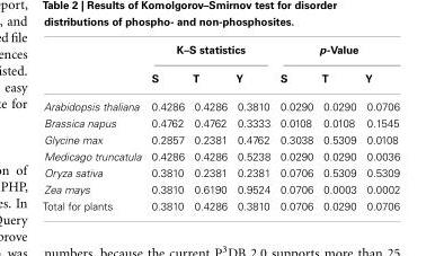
<table><thead><tr><td rowspan="2"></td><td colspan="3">K–S statistics</td><td colspan="3">p-Value</td></tr><tr><td>S</td><td>T</td><td>Y</td><td>S</td><td>T</td><td>Y</td></tr></thead><tbody><tr><td>Arabidopsis thaliana</td><td>0.4286</td><td>0.4286</td><td>0.3810</td><td>0.0290</td><td>0.0290</td><td>0.0706</td></tr><tr><td>Brassica napus</td><td>0.4762</td><td>0.4762</td><td>0.3333</td><td>0.0108</td><td>0.0108</td><td>0.1545</td></tr><tr><td>Glycine max</td><td>0.2857</td><td>0.2381</td><td>0.4762</td><td>0.3038</td><td>0.5309</td><td>0.0108</td></tr><tr><td>Medicago truncatula</td><td>0.4286</td><td>0.4286</td><td>0.5238</td><td>0.0290</td><td>0.0290</td><td>0.0036</td></tr><tr><td>Oryza sativa</td><td>0.3810</td><td>0.2381</td><td>0.2381</td><td>0.0706</td><td>0.5309</td><td>0.5309</td></tr><tr><td>Zea mays</td><td>0.3810</td><td>0.6190</td><td>0.9524</td><td>0.0706</td><td>0.0003</td><td>0.0002</td></tr><tr><td>Total for plants</td><td>0.3810</td><td>0.4286</td><td>0.3810</td><td>0.0706</td><td>0.0290</td><td>0.0706</td></tr></tbody></table>